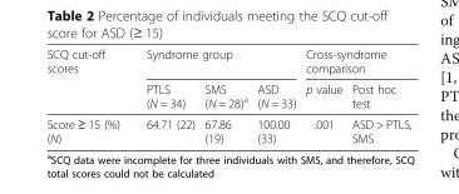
<table><thead><tr><td rowspan="2">SCQ cut-off scores</td><td colspan="3">Syndrome group</td><td colspan="2">Cross-syndrome comparison</td></tr><tr><td>PTLS (N = 34)</td><td>SMS (N = 28)<sup>a</sup></td><td>ASD (N = 33)</td><td>p value</td><td>Post hoc test</td></tr></thead><tbody><tr><td>Score ≥ 15 (%) (N)</td><td>64.71 (22)</td><td>67.86 (19)</td><td>100.00 (33)</td><td>.001</td><td>ASD &gt; PTLS, SMS</td></tr></tbody></table>